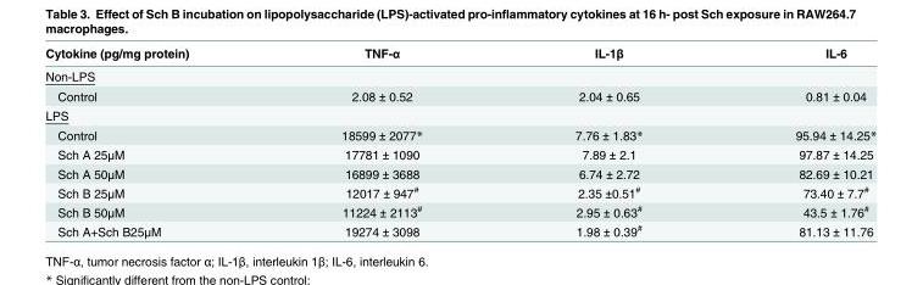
<table><thead><tr><td>Cytokine (pg/mg protein)</td><td>TNF-α</td><td>IL-1β</td><td>IL-6</td></tr></thead><tbody><tr><td colspan="4">Non-LPS</td></tr><tr><td>Control</td><td>2.08 ± 0.52</td><td>2.04 ± 0.65</td><td>0.81 ± 0.04</td></tr><tr><td colspan="4">LPS</td></tr><tr><td>Control</td><td>18599 ± 2077*</td><td>7.76 ± 1.83*</td><td>95.94 ± 14.25*</td></tr><tr><td>Sch A 25μM</td><td>17781 ± 1090</td><td>7.89 ± 2.1</td><td>97.87 ± 14.25</td></tr><tr><td>Sch A 50μM</td><td>16899 ± 3688</td><td>6.74 ± 2.72</td><td>82.69 ± 10.21</td></tr><tr><td>Sch B 25μM</td><td>12017 ± 947<sup>#</sup></td><td>2.35 ±0.51<sup>#</sup></td><td>73.40 ± 7.7<sup>#</sup></td></tr><tr><td>Sch B 50μM</td><td>11224 ± 2113<sup>#</sup></td><td>2.95 ± 0.63<sup>#</sup></td><td>43.5 ± 1.76<sup>#</sup></td></tr><tr><td>Sch A+Sch B25μM</td><td>19274 ± 3098</td><td>1.98 ± 0.39<sup>#</sup></td><td>81.13 ± 11.76</td></tr></tbody></table>